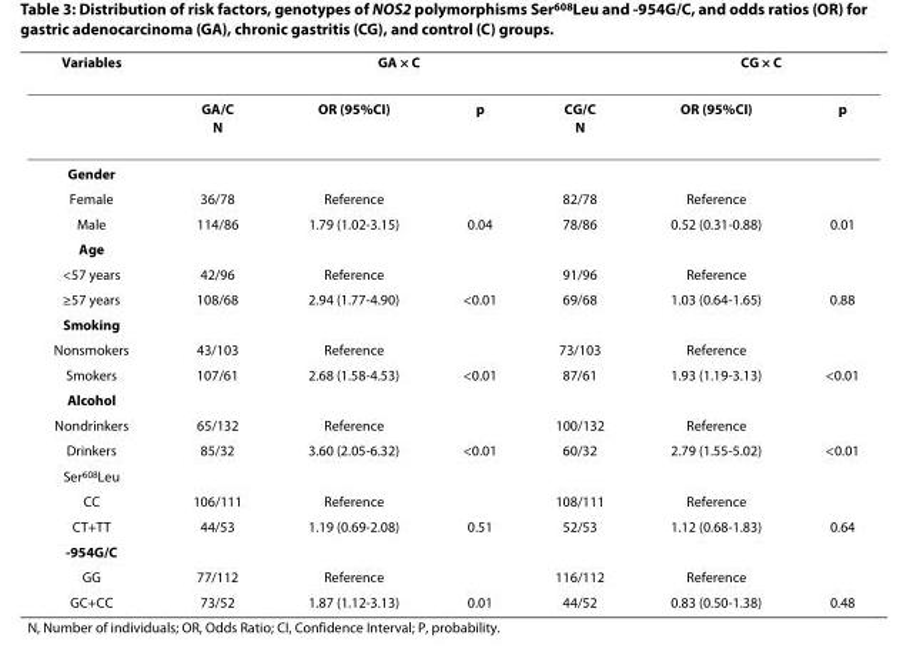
<table><thead><tr><td rowspan="2">Variables</td><td rowspan="2">GA/C N</td><td colspan="2">GA × C</td><td rowspan="2">CG/C N</td><td colspan="2">CG × C</td></tr><tr><td>OR (95%CI)</td><td>p</td><td>OR (95%CI)</td><td>p</td></tr></thead><tbody><tr><td colspan="7">Gender</td></tr><tr><td>Female</td><td>36/78</td><td>Reference</td><td></td><td>82/78</td><td>Reference</td><td></td></tr><tr><td>Male</td><td>114/86</td><td>1.79 (1.02-3.15)</td><td>0.04</td><td>78/86</td><td>0.52 (0.31-0.88)</td><td>0.01</td></tr><tr><td colspan="7">Age</td></tr><tr><td>&lt;57 years</td><td>42/96</td><td>Reference</td><td></td><td>91/96</td><td>Reference</td><td></td></tr><tr><td>≥57 years</td><td>108/68</td><td>2.94 (1.77-4.90)</td><td>&lt;0.01</td><td>69/68</td><td>1.03 (0.64-1.65)</td><td>0.88</td></tr><tr><td colspan="7">Smoking</td></tr><tr><td>Nonsmokers</td><td>43/103</td><td>Reference</td><td></td><td>73/103</td><td>Reference</td><td></td></tr><tr><td>Smokers</td><td>107/61</td><td>2.68 (1.58-4.53)</td><td>&lt;0.01</td><td>87/61</td><td>1.93 (1.19-3.13)</td><td>&lt;0.01</td></tr><tr><td colspan="7">Alcohol</td></tr><tr><td>Nondrinkers</td><td>65/132</td><td>Reference</td><td></td><td>100/132</td><td>Reference</td><td></td></tr><tr><td>Drinkers</td><td>85/32</td><td>3.60 (2.05-6.32)</td><td>&lt;0.01</td><td>60/32</td><td>2.79 (1.55-5.02)</td><td>&lt;0.01</td></tr><tr><td colspan="7">Ser<sup>608</sup>Leu</td></tr><tr><td>CC</td><td>106/111</td><td>Reference</td><td></td><td>108/111</td><td>Reference</td><td></td></tr><tr><td>CT+TT</td><td>44/53</td><td>1.19 (0.69-2.08)</td><td>0.51</td><td>52/53</td><td>1.12 (0.68-1.83)</td><td>0.64</td></tr><tr><td colspan="7">-954G/C</td></tr><tr><td>GG</td><td>77/112</td><td>Reference</td><td></td><td>116/112</td><td>Reference</td><td></td></tr><tr><td>GC+CC</td><td>73/52</td><td>1.87 (1.12-3.13)</td><td>0.01</td><td>44/52</td><td>0.83 (0.50-1.38)</td><td>0.48</td></tr></tbody></table>